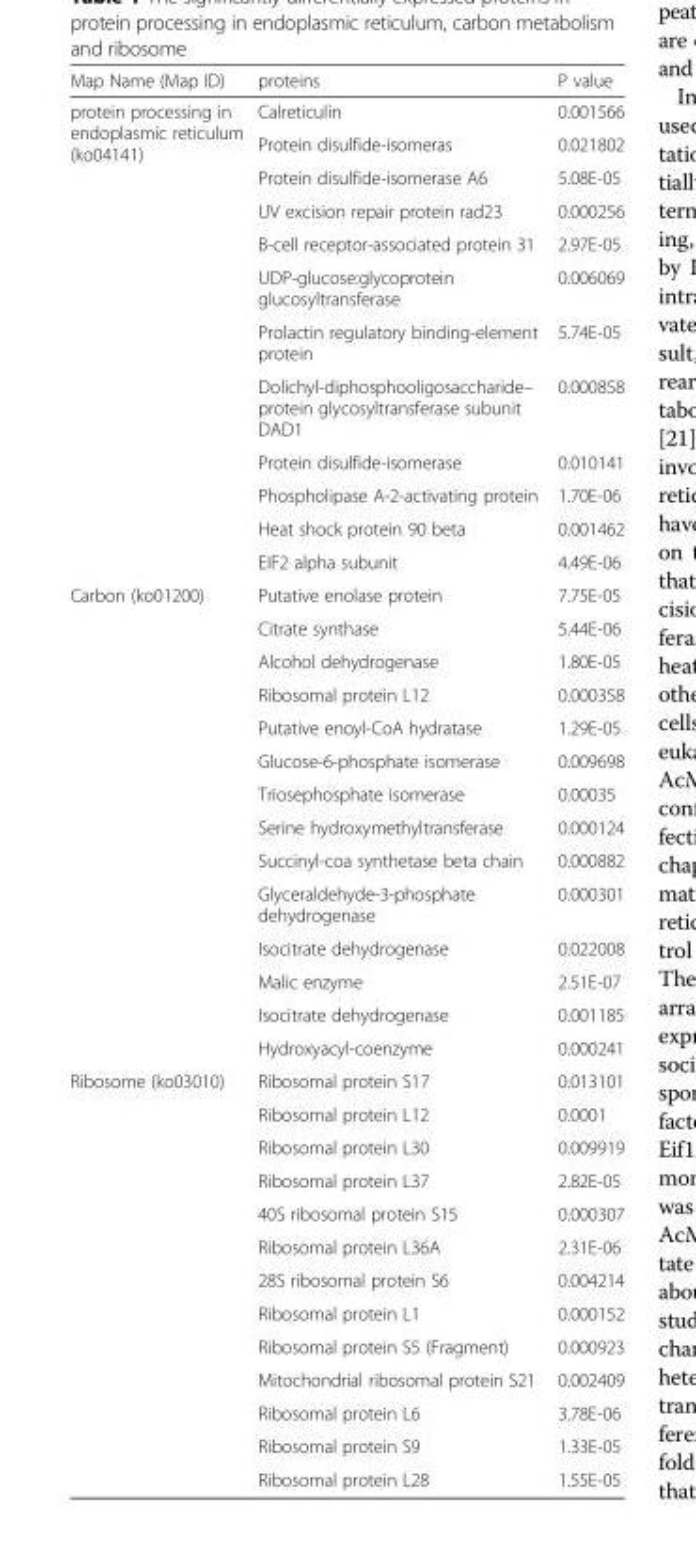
<table><thead><tr><td>Map Name (Map ID)</td><td>proteins</td><td>P value</td></tr></thead><tbody><tr><td rowspan="12">protein processing in endoplasmic reticulum (ko04141)</td><td>Calreticulin</td><td>0.001566</td></tr><tr><td>Protein disulfide-isomeras</td><td>0.021802</td></tr><tr><td>Protein disulfide-isomerase A6</td><td>5.08E-05</td></tr><tr><td>UV excision repair protein rad23</td><td>0.000256</td></tr><tr><td>B-cell receptor-associated protein 31</td><td>2.97E-05</td></tr><tr><td>UDP-glucose:glycoprotein glucosyltransferase</td><td>0.006069</td></tr><tr><td>Prolactin regulatory binding-element protein</td><td>5.74E-05</td></tr><tr><td>Dolichyl-diphosphooligosaccharide– protein glycosyltransferase subunit DAD1</td><td>0.000858</td></tr><tr><td>Protein disulfide-isomerase</td><td>0.010141</td></tr><tr><td>Phospholipase A-2-activating protein</td><td>1.70E-06</td></tr><tr><td>Heat shock protein 90 beta</td><td>0.001462</td></tr><tr><td>EIF2 alpha subunit</td><td>4.49E-06</td></tr><tr><td rowspan="14">Carbon (ko01200)</td><td>Putative enolase protein</td><td>7.75E-05</td></tr><tr><td>Citrate synthase</td><td>5.44E-06</td></tr><tr><td>Alcohol dehydrogenase</td><td>1.80E-05</td></tr><tr><td>Ribosomal protein L12</td><td>0.000358</td></tr><tr><td>Putative enoyl-CoA hydratase</td><td>1.29E-05</td></tr><tr><td>Glucose-6-phosphate isomerase</td><td>0.009698</td></tr><tr><td>Triosephosphate isomerase</td><td>0.00035</td></tr><tr><td>Serine hydroxymethyltransferase</td><td>0.000124</td></tr><tr><td>Succinyl-coa synthetase beta chain</td><td>0.000882</td></tr><tr><td>Glyceraldehyde-3-phosphate dehydrogenase</td><td>0.000301</td></tr><tr><td>Isocitrate dehydrogenase</td><td>0.022008</td></tr><tr><td>Malic enzyme</td><td>2.51E-07</td></tr><tr><td>Isocitrate dehydrogenase</td><td>0.001185</td></tr><tr><td>Hydroxyacyl-coenzyme</td><td>0.000241</td></tr><tr><td rowspan="13">Ribosome (ko03010)</td><td>Ribosomal protein S17</td><td>0.013101</td></tr><tr><td>Ribosomal protein L12</td><td>0.0001</td></tr><tr><td>Ribosomal protein L30</td><td>0.009919</td></tr><tr><td>Ribosomal protein L37</td><td>2.82E-05</td></tr><tr><td>40S ribosomal protein S15</td><td>0.000307</td></tr><tr><td>Ribosomal protein L36A</td><td>2.31E-06</td></tr><tr><td>28S ribosomal protein S6</td><td>0.004214</td></tr><tr><td>Ribosomal protein L1</td><td>0.000152</td></tr><tr><td>Ribosomal protein S5 (Fragment)</td><td>0.000923</td></tr><tr><td>Mitochondrial ribosomal protein S21</td><td>0.002409</td></tr><tr><td>Ribosomal protein L6</td><td>3.78E-06</td></tr><tr><td>Ribosomal protein S9</td><td>1.33E-05</td></tr><tr><td>Ribosomal protein L28</td><td>1.55E-05</td></tr></tbody></table>